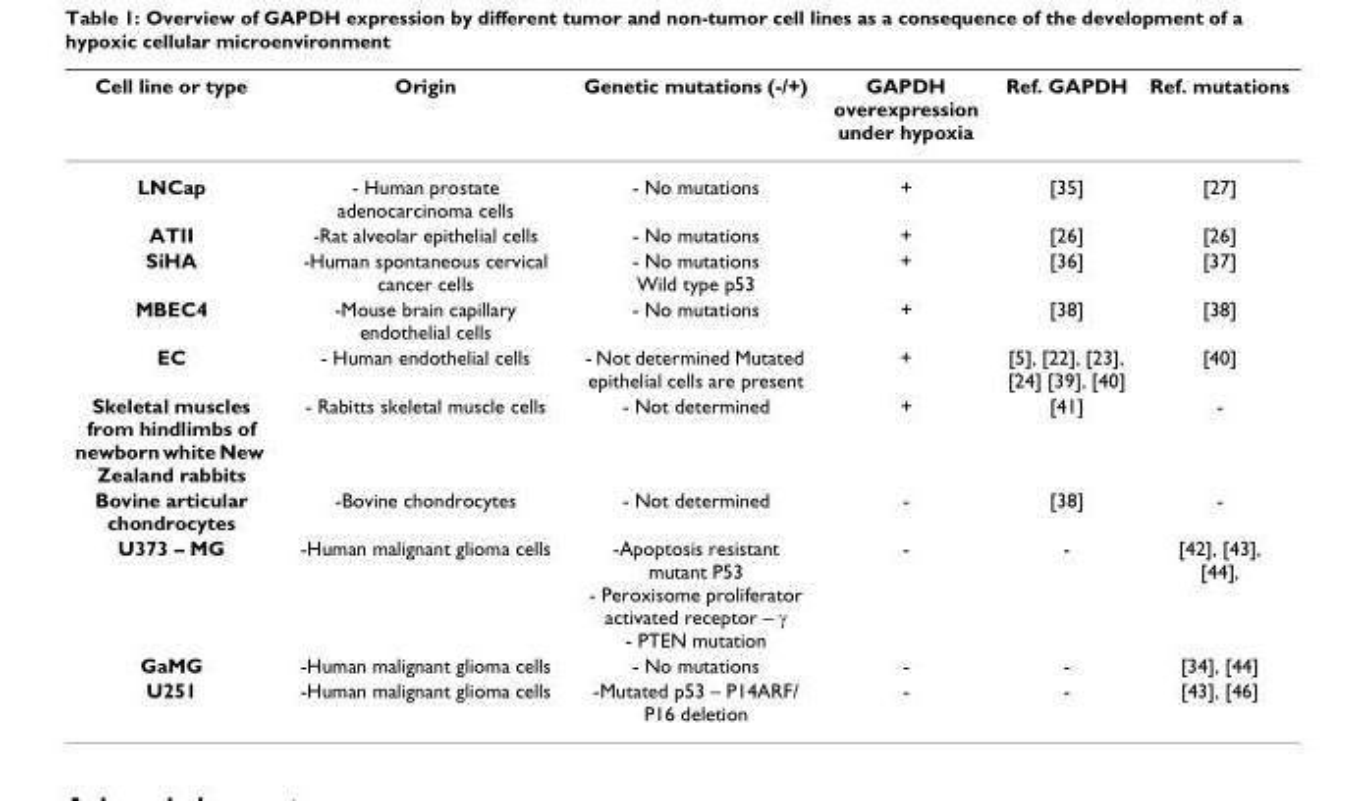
<table><thead><tr><td>Cell line or type</td><td>Origin</td><td>Genetic mutations (-/+)</td><td>GAPDH overexpression under hypoxia</td><td>Ref. GAPDH</td><td>Ref. mutations</td></tr></thead><tbody><tr><td>LNCap</td><td>- Human prostate adenocarcinoma cells</td><td>- No mutations</td><td>+</td><td>[35]</td><td>[27]</td></tr><tr><td>ATII</td><td>-Rat alveolar epithelial cells</td><td>- No mutations</td><td>+</td><td>[26]</td><td>[26]</td></tr><tr><td>SiHA</td><td>-Human spontaneous cervical cancer cells</td><td>- No mutations Wild type p53</td><td>+</td><td>[36]</td><td>[37]</td></tr><tr><td>MBEC4</td><td>-Mouse brain capillary endothelial cells</td><td>- No mutations</td><td>+</td><td>[38]</td><td>[38]</td></tr><tr><td>EC</td><td>- Human endothelial cells</td><td>- Not determined Mutated epithelial cells are present</td><td>+</td><td>[5], [22], [23], [24] [39], [40]</td><td>[40]</td></tr><tr><td>Skeletal muscles from hindlimbs of newborn white New Zealand rabbits</td><td>- Rabitts skeletal muscle cells</td><td>- Not determined</td><td>+</td><td>[41]</td><td>-</td></tr><tr><td>Bovine articular chondrocytes</td><td>-Bovine chondrocytes</td><td>- Not determined</td><td>-</td><td>[38]</td><td>-</td></tr><tr><td>U373 – MG</td><td>-Human malignant glioma cells</td><td>-Apoptosis resistant mutant P53 - Peroxisome proliferator activated receptor – γ - PTEN mutation</td><td>-</td><td>-</td><td>[42], [43], [44],</td></tr><tr><td>GaMG</td><td>-Human malignant glioma cells</td><td>- No mutations</td><td>-</td><td>-</td><td>[34], [44]</td></tr><tr><td>U251</td><td>-Human malignant glioma cells</td><td>-Mutated p53 – P14ARF/ P16 deletion</td><td>-</td><td>-</td><td>[43], [46]</td></tr></tbody></table>